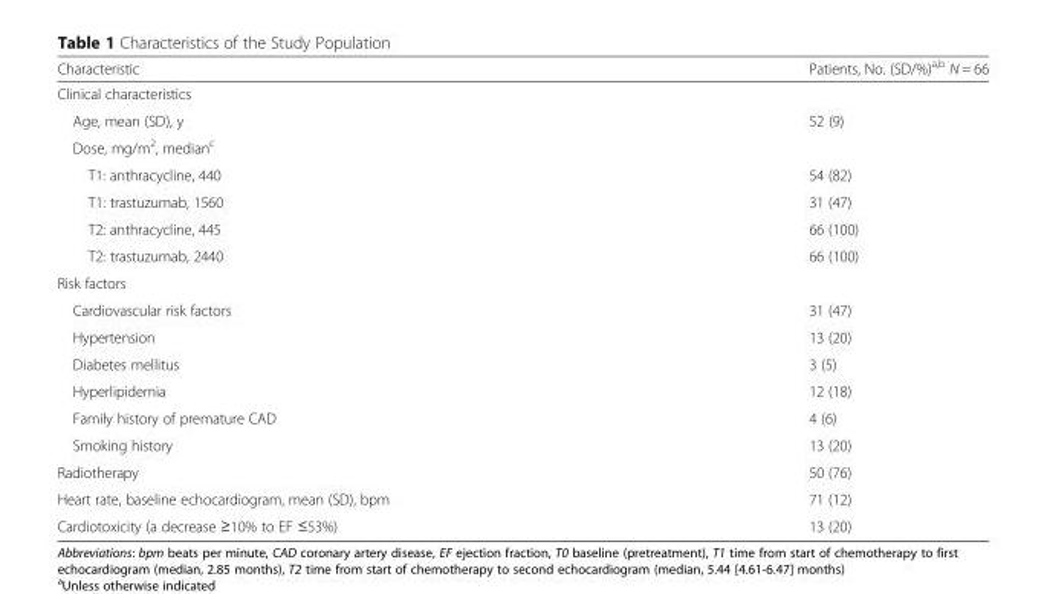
<table><thead><tr><td>Characteristic</td><td>Patients, No. (SD/%)<sup>a,b</sup> N = 66</td></tr></thead><tbody><tr><td colspan="2">Clinical characteristics</td></tr><tr><td>Age, mean (SD), y</td><td>52 (9)</td></tr><tr><td colspan="2">Dose, mg/m<sup>2</sup>, median<sup>c</sup></td></tr><tr><td>T1: anthracycline, 440</td><td>54 (82)</td></tr><tr><td>T1: trastuzumab, 1560</td><td>31 (47)</td></tr><tr><td>T2: anthracycline, 445</td><td>66 (100)</td></tr><tr><td>T2: trastuzumab, 2440</td><td>66 (100)</td></tr><tr><td colspan="2">Risk factors</td></tr><tr><td>Cardiovascular risk factors</td><td>31 (47)</td></tr><tr><td>Hypertension</td><td>13 (20)</td></tr><tr><td>Diabetes mellitus</td><td>3 (5)</td></tr><tr><td>Hyperlipidemia</td><td>12 (18)</td></tr><tr><td>Family history of premature CAD</td><td>4 (6)</td></tr><tr><td>Smoking history</td><td>13 (20)</td></tr><tr><td>Radiotherapy</td><td>50 (76)</td></tr><tr><td>Heart rate, baseline echocardiogram, mean (SD), bpm</td><td>71 (12)</td></tr><tr><td>Cardiotoxicity (a decrease ≥10% to EF ≤53%)</td><td>13 (20)</td></tr></tbody></table>